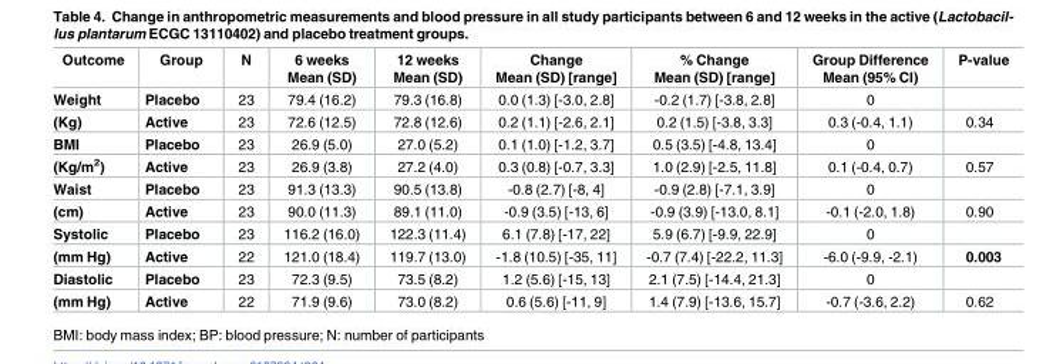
<table><thead><tr><td>Outcome</td><td>Group</td><td>N</td><td>6 weeks Mean (SD)</td><td>12 weeks Mean (SD)</td><td>Change Mean (SD) [range]</td><td>% Change Mean (SD) [range]</td><td>Group Difference Mean (95% CI)</td><td>P-value</td></tr></thead><tbody><tr><td>Weight</td><td>Placebo</td><td>23</td><td>79.4 (16.2)</td><td>79.3 (16.8)</td><td>0.0 (1.3) [-3.0, 2.8]</td><td>-0.2 (1.7) [-3.8, 2.8]</td><td>0</td><td></td></tr><tr><td>(Kg)</td><td>Active</td><td>23</td><td>72.6 (12.5)</td><td>72.8 (12.6)</td><td>0.2 (1.1) [-2.6, 2.1]</td><td>0.2 (1.5) [-3.8, 3.3]</td><td>0.3 (-0.4, 1.1)</td><td>0.34</td></tr><tr><td>BMI</td><td>Placebo</td><td>23</td><td>26.9 (5.0)</td><td>27.0 (5.2)</td><td>0.1 (1.0) [-1.2, 3.7]</td><td>0.5 (3.5) [-4.8, 13.4]</td><td>0</td><td></td></tr><tr><td>(Kg/m<sup>2</sup>)</td><td>Active</td><td>23</td><td>26.9 (3.8)</td><td>27.2 (4.0)</td><td>0.3 (0.8) [-0.7, 3.3]</td><td>1.0 (2.9) [-2.5, 11.8]</td><td>0.1 (-0.4, 0.7)</td><td>0.57</td></tr><tr><td>Waist</td><td>Placebo</td><td>23</td><td>91.3 (13.3)</td><td>90.5 (13.8)</td><td>-0.8 (2.7) [-8, 4]</td><td>-0.9 (2.8) [-7.1, 3.9]</td><td>0</td><td></td></tr><tr><td>(cm)</td><td>Active</td><td>23</td><td>90.0 (11.3)</td><td>89.1 (11.0)</td><td>-0.9 (3.5) [-13, 6]</td><td>-0.9 (3.9) [-13.0, 8.1]</td><td>-0.1 (-2.0, 1.8)</td><td>0.90</td></tr><tr><td>Systolic</td><td>Placebo</td><td>23</td><td>116.2 (16.0)</td><td>122.3 (11.4)</td><td>6.1 (7.8) [-17, 22]</td><td>5.9 (6.7) [-9.9, 22.9]</td><td>0</td><td></td></tr><tr><td>(mm Hg)</td><td>Active</td><td>22</td><td>121.0 (18.4)</td><td>119.7 (13.0)</td><td>-1.8 (10.5) [-35, 11]</td><td>-0.7 (7.4) [-22.2, 11.3]</td><td>-6.0 (-9.9, -2.1)</td><td>0.003</td></tr><tr><td>Diastolic</td><td>Placebo</td><td>23</td><td>72.3 (9.5)</td><td>73.5 (8.2)</td><td>1.2 (5.6) [-15, 13]</td><td>2.1 (7.5) [-14.4, 21.3]</td><td>0</td><td></td></tr><tr><td>(mm Hg)</td><td>Active</td><td>22</td><td>71.9 (9.6)</td><td>73.0 (8.2)</td><td>0.6 (5.6) [-11, 9]</td><td>1.4 (7.9) [-13.6, 15.7]</td><td>-0.7 (-3.6, 2.2)</td><td>0.62</td></tr></tbody></table>